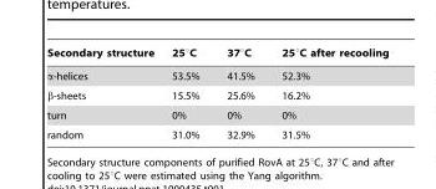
<table><thead><tr><td>Secondary structure</td><td>25°C</td><td>37°C</td><td>25°C after recooling</td></tr></thead><tbody><tr><td>α-helices</td><td>53.5%</td><td>41.5%</td><td>52.3%</td></tr><tr><td>β-sheets</td><td>15.5%</td><td>25.6%</td><td>16.2%</td></tr><tr><td>turn</td><td>0%</td><td>0%</td><td>0%</td></tr><tr><td>random</td><td>31.0%</td><td>32.9%</td><td>31.5%</td></tr></tbody></table>